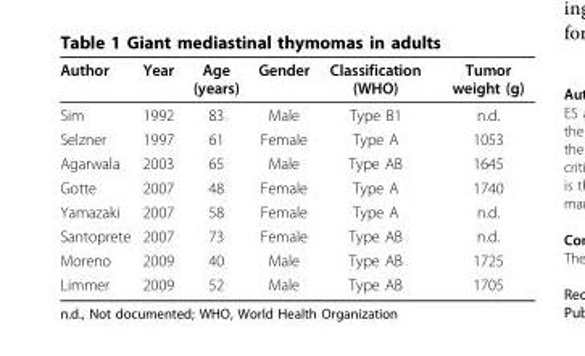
<table><thead><tr><td>Author</td><td>Year</td><td>Age (years)</td><td>Gender</td><td>Classification (WHO)</td><td>Tumor weight (g)</td></tr></thead><tbody><tr><td>Sim</td><td>1992</td><td>83</td><td>Male</td><td>Type B1</td><td>n.d.</td></tr><tr><td>Selzner</td><td>1997</td><td>61</td><td>Female</td><td>Type A</td><td>1053</td></tr><tr><td>Agarwala</td><td>2003</td><td>65</td><td>Male</td><td>Type AB</td><td>1645</td></tr><tr><td>Gotte</td><td>2007</td><td>48</td><td>Female</td><td>Type A</td><td>1740</td></tr><tr><td>Yamazaki</td><td>2007</td><td>58</td><td>Female</td><td>Type A</td><td>n.d.</td></tr><tr><td>Santoprete</td><td>2007</td><td>73</td><td>Female</td><td>Type AB</td><td>n.d.</td></tr><tr><td>Moreno</td><td>2009</td><td>40</td><td>Male</td><td>Type AB</td><td>1725</td></tr><tr><td>Limmer</td><td>2009</td><td>52</td><td>Male</td><td>Type AB</td><td>1705</td></tr></tbody></table>